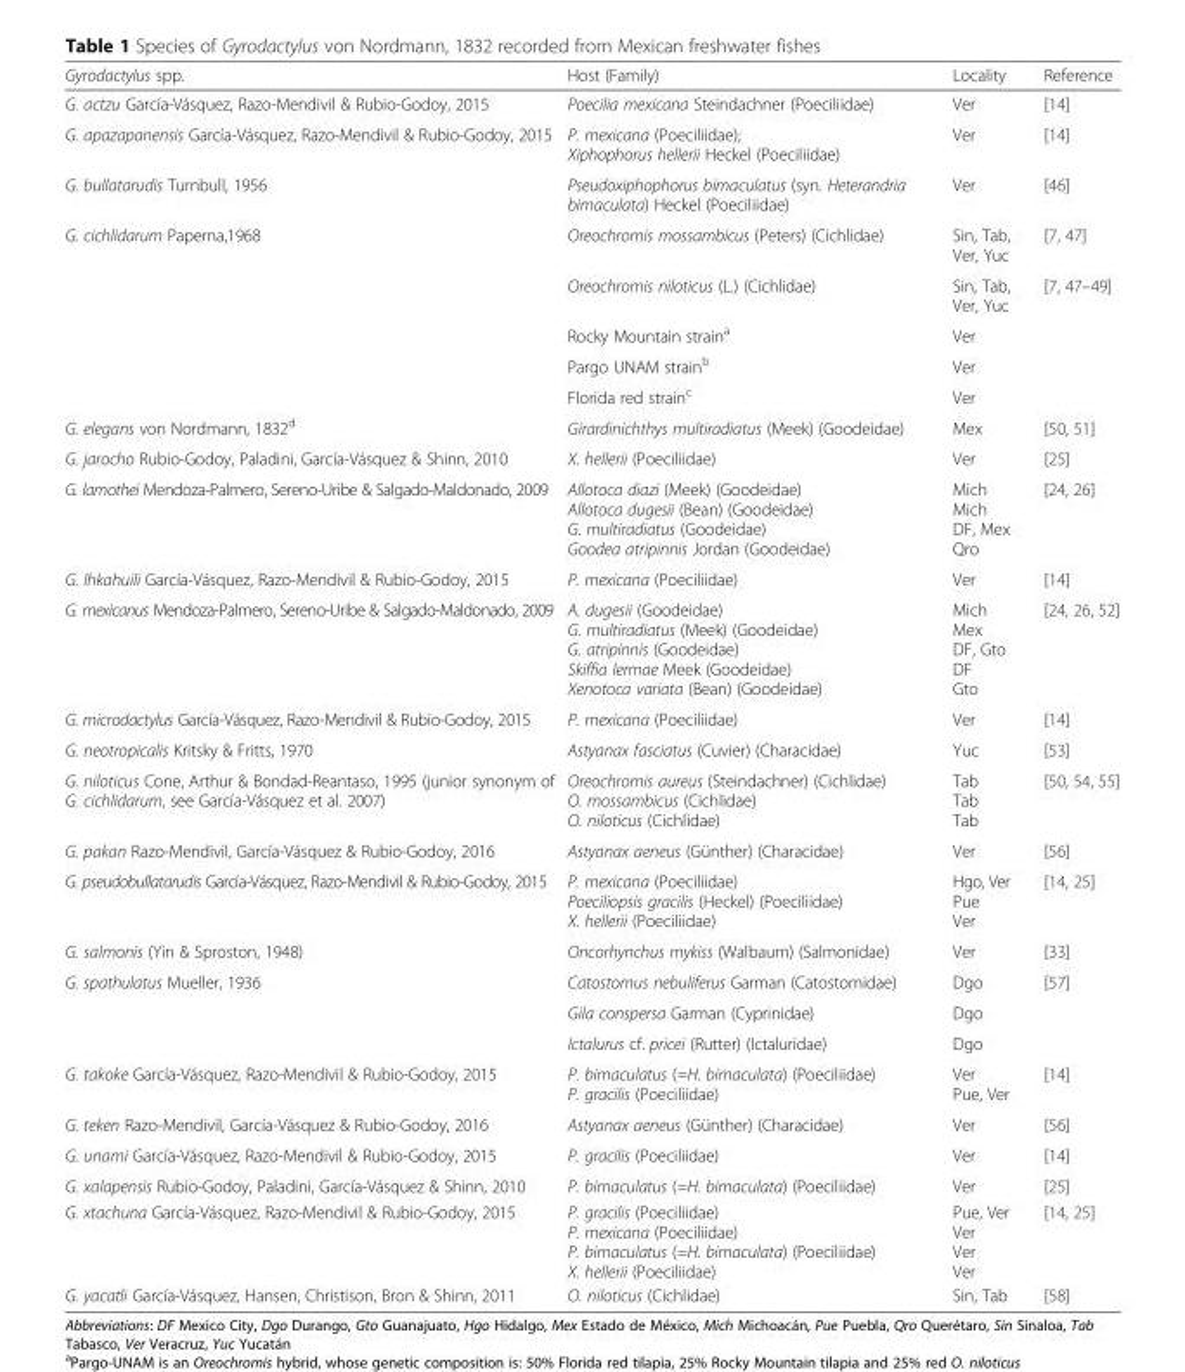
<table><thead><tr><td>Gyrodactylus spp.</td><td>Host (Family)</td><td>Locality</td><td>Reference</td></tr></thead><tbody><tr><td>G. actzu García-Vásquez, Razo-Mendivil &amp; Rubio-Godoy, 2015</td><td>Poecilia mexicana Steindachner (Poeciliidae)</td><td>Ver</td><td>[14]</td></tr><tr><td>G. apazapanensis García-Vásquez, Razo-Mendivil &amp; Rubio-Godoy, 2015</td><td>P. mexicana (Poeciliidae); Xiphophorus hellerii Heckel (Poeciliidae)</td><td>Ver</td><td>[14]</td></tr><tr><td>G. bullatarudis Turnbull, 1956</td><td>Pseudoxiphophorus bimaculatus (syn. Heterandria bimaculata) Heckel (Poeciliidae)</td><td>Ver</td><td>[46]</td></tr><tr><td rowspan="5">G. cichlidarum Paperna,1968</td><td>Oreochromis mossambicus (Peters) (Cichlidae)</td><td>Sin, Tab, Ver, Yuc</td><td>[7, 47]</td></tr><tr><td>Oreochromis niloticus (L.) (Cichlidae)</td><td>Sin, Tab, Ver, Yuc</td><td>[7, 47–49]</td></tr><tr><td>Rocky Mountain strain<sup>a</sup></td><td>Ver</td><td></td></tr><tr><td>Pargo UNAM strain<sup>b</sup></td><td>Ver</td><td></td></tr><tr><td>Florida red strain<sup>c</sup></td><td>Ver</td><td></td></tr><tr><td>G. elegans von Nordmann, 1832<sup>d</sup></td><td>Girardinichthys multiradiatus (Meek) (Goodeidae)</td><td>Mex</td><td>[50, 51]</td></tr><tr><td>G. jarocho Rubio-Godoy, Paladini, García-Vásquez &amp; Shinn, 2010</td><td>X. hellerii (Poeciliidae)</td><td>Ver</td><td>[25]</td></tr><tr><td>G. lamothei Mendoza-Palmero, Sereno-Uribe &amp; Salgado-Maldonado, 2009</td><td>Allotoca diazi (Meek) (Goodeidae) Allotoca dugesii (Bean) (Goodeidae) G. multiradiatus (Goodeidae) Goodea atripinnis Jordan (Goodeidae)</td><td>Mich Mich DF, Mex Qro</td><td>[24, 26]</td></tr><tr><td>G. lhkahuili García-Vásquez, Razo-Mendivil &amp; Rubio-Godoy, 2015</td><td>P. mexicana (Poeciliidae)</td><td>Ver</td><td>[14]</td></tr><tr><td>G. mexicanus Mendoza-Palmero, Sereno-Uribe &amp; Salgado-Maldonado, 2009</td><td>A. dugesii (Goodeidae) G. multiradiatus (Meek) (Goodeidae) G. atripinnis (Goodeidae) Skiffia lermae Meek (Goodeidae) Xenotoca variata (Bean) (Goodeidae)</td><td>Mich Mex DF, Gto DF Gto</td><td>[24, 26, 52]</td></tr><tr><td>G. microdactylus García-Vásquez, Razo-Mendivil &amp; Rubio-Godoy, 2015</td><td>P. mexicana (Poeciliidae)</td><td>Ver</td><td>[14]</td></tr><tr><td>G. neotropicalis Kritsky &amp; Fritts, 1970</td><td>Astyanax fasciatus (Cuvier) (Characidae)</td><td>Yuc</td><td>[53]</td></tr><tr><td>G. niloticus Cone, Arthur &amp; Bondad-Reantaso, 1995 (junior synonym of G. cichlidarum, see García-Vásquez et al. 2007)</td><td>Oreochromis aureus (Steindachner) (Cichlidae) O. mossambicus (Cichlidae) O. niloticus (Cichlidae)</td><td>Tab Tab Tab</td><td>[50, 54, 55]</td></tr><tr><td>G. pakan Razo-Mendivil, García-Vásquez &amp; Rubio-Godoy, 2016</td><td>Astyanax aeneus (Günther) (Characidae)</td><td>Ver</td><td>[56]</td></tr><tr><td>G. pseudobullatarudis García-Vásquez, Razo-Mendivil &amp; Rubio-Godoy, 2015</td><td>P. mexicana (Poeciliidae) Poeciliopsis gracilis (Heckel) (Poeciliidae) X. hellerii (Poeciliidae)</td><td>Hgo, Ver Pue Ver</td><td>[14, 25]</td></tr><tr><td>G. salmonis (Yin &amp; Sproston, 1948)</td><td>Oncorhynchus mykiss (Walbaum) (Salmonidae)</td><td>Ver</td><td>[33]</td></tr><tr><td rowspan="3">G. spathulatus Mueller, 1936</td><td>Catostomus nebuliferus Garman (Catostomidae)</td><td>Dgo</td><td>[57]</td></tr><tr><td>Gila conspersa Garman (Cyprinidae)</td><td>Dgo</td><td></td></tr><tr><td>Ictalurus cf. pricei (Rutter) (Ictaluridae)</td><td>Dgo</td><td></td></tr><tr><td>G. takoke García-Vásquez, Razo-Mendivil &amp; Rubio-Godoy, 2015</td><td>P. bimaculatus (=H. bimaculata) (Poeciliidae) P. gracilis (Poeciliidae)</td><td>Ver Pue, Ver</td><td>[14]</td></tr><tr><td>G. teken Razo-Mendivil, García-Vásquez &amp; Rubio-Godoy, 2016</td><td>Astyanax aeneus (Günther) (Characidae)</td><td>Ver</td><td>[56]</td></tr><tr><td>G. unami García-Vásquez, Razo-Mendivil &amp; Rubio-Godoy, 2015</td><td>P. gracilis (Poeciliidae)</td><td>Ver</td><td>[14]</td></tr><tr><td>G. xalapensis Rubio-Godoy, Paladini, García-Vásquez &amp; Shinn, 2010</td><td>P. bimaculatus (=H. bimaculata) (Poeciliidae)</td><td>Ver</td><td>[25]</td></tr><tr><td>G. xtachuna García-Vásquez, Razo-Mendivil &amp; Rubio-Godoy, 2015</td><td>P. gracilis (Poeciliidae) P. mexicana (Poeciliidae) P. bimaculatus (=H. bimaculata) (Poeciliidae) X. hellerii (Poeciliidae)</td><td>Pue, Ver Ver Ver Ver</td><td>[14, 25]</td></tr><tr><td>G. yacatli García-Vásquez, Hansen, Christison, Bron &amp; Shinn, 2011</td><td>O. niloticus (Cichlidae)</td><td>Sin, Tab</td><td>[58]</td></tr></tbody></table>